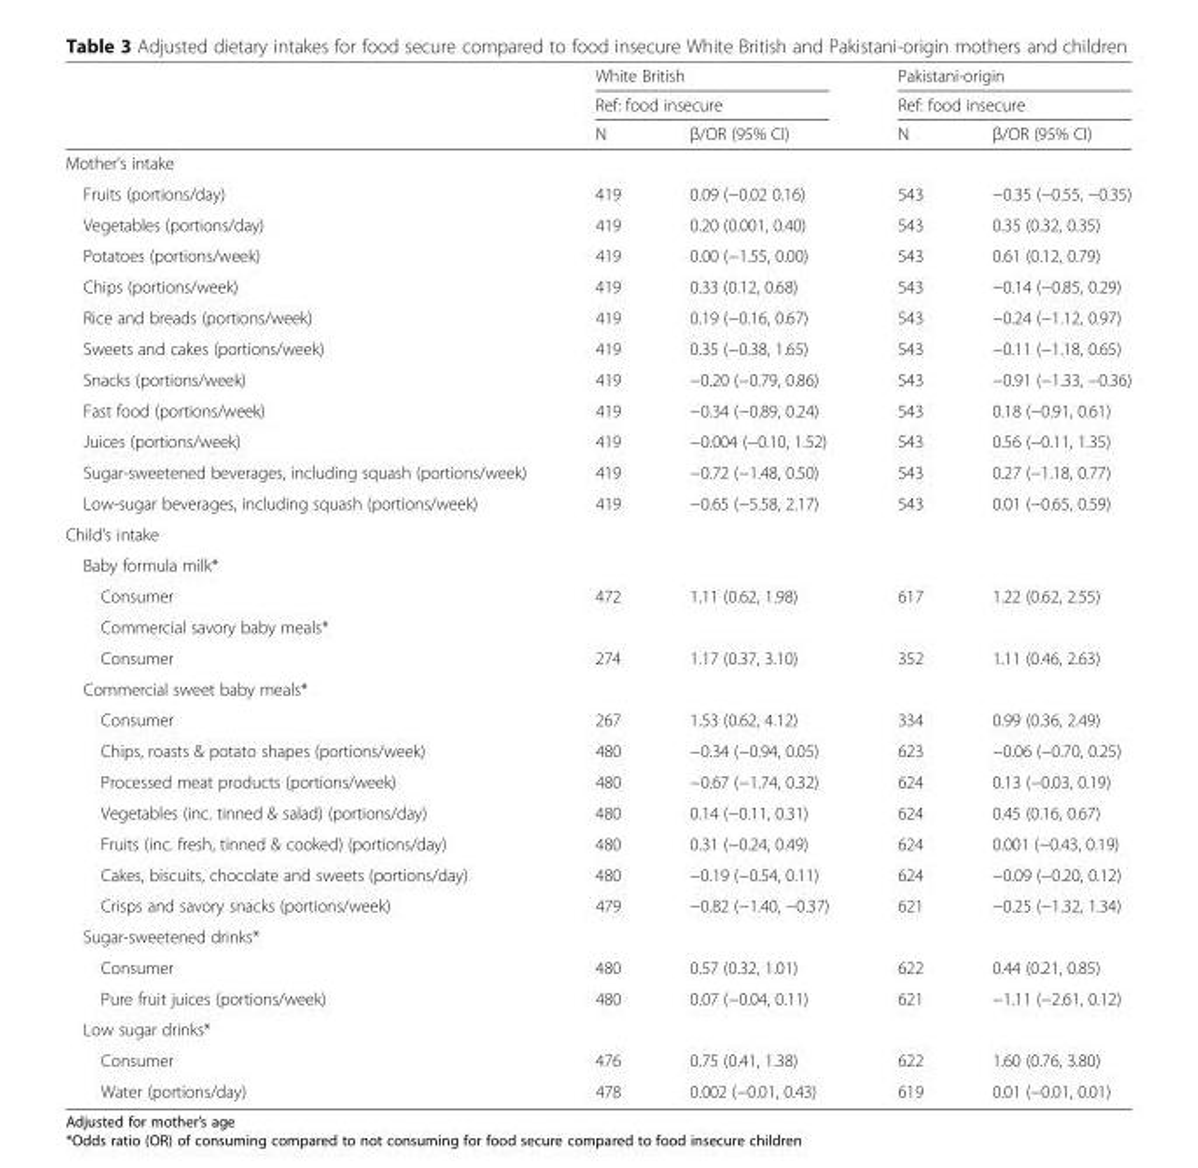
<table><thead><tr><td rowspan="3"></td><td rowspan="2" colspan="2">White British Ref: food insecure</td><td rowspan="2" colspan="2">Pakistani-origin Ref: food insecure</td></tr><tr></tr><tr><td>N</td><td>β/OR (95% CI)</td><td>N</td><td>β/OR (95% CI)</td></tr></thead><tbody><tr><td colspan="5">Mother’s intake</td></tr><tr><td>Fruits (portions/day)</td><td>419</td><td>0.09 (−0.02 0.16)</td><td>543</td><td>−0.35 (−0.55, −0.35)</td></tr><tr><td>Vegetables (portions/day)</td><td>419</td><td>0.20 (0.001, 0.40)</td><td>543</td><td>0.35 (0.32, 0.35)</td></tr><tr><td>Potatoes (portions/week)</td><td>419</td><td>0.00 (−1.55, 0.00)</td><td>543</td><td>0.61 (0.12, 0.79)</td></tr><tr><td>Chips (portions/week)</td><td>419</td><td>0.33 (0.12, 0.68)</td><td>543</td><td>−0.14 (−0.85, 0.29)</td></tr><tr><td>Rice and breads (portions/week)</td><td>419</td><td>0.19 (−0.16, 0.67)</td><td>543</td><td>−0.24 (−1.12, 0.97)</td></tr><tr><td>Sweets and cakes (portions/week)</td><td>419</td><td>0.35 (−0.38, 1.65)</td><td>543</td><td>−0.11 (−1.18, 0.65)</td></tr><tr><td>Snacks (portions/week)</td><td>419</td><td>−0.20 (−0.79, 0.86)</td><td>543</td><td>−0.91 (−1.33, −0.36)</td></tr><tr><td>Fast food (portions/week)</td><td>419</td><td>−0.34 (−0.89, 0.24)</td><td>543</td><td>0.18 (−0.91, 0.61)</td></tr><tr><td>Juices (portions/week)</td><td>419</td><td>−0.004 (−0.10, 1.52)</td><td>543</td><td>0.56 (−0.11, 1.35)</td></tr><tr><td>Sugar-sweetened beverages, including squash (portions/week)</td><td>419</td><td>−0.72 (−1.48, 0.50)</td><td>543</td><td>0.27 (−1.18, 0.77)</td></tr><tr><td>Low-sugar beverages, including squash (portions/week)</td><td>419</td><td>−0.65 (−5.58, 2.17)</td><td>543</td><td>0.01 (−0.65, 0.59)</td></tr><tr><td colspan="5">Child’s intake</td></tr><tr><td colspan="5">Baby formula milk*</td></tr><tr><td>Consumer</td><td>472</td><td>1.11 (0.62, 1.98)</td><td>617</td><td>1.22 (0.62, 2.55)</td></tr><tr><td colspan="5">Commercial savory baby meals*</td></tr><tr><td>Consumer</td><td>274</td><td>1.17 (0.37, 3.10)</td><td>352</td><td>1.11 (0.46, 2.63)</td></tr><tr><td colspan="5">Commercial sweet baby meals*</td></tr><tr><td>Consumer</td><td>267</td><td>1.53 (0.62, 4.12)</td><td>334</td><td>0.99 (0.36, 2.49)</td></tr><tr><td>Chips, roasts &amp; potato shapes (portions/week)</td><td>480</td><td>−0.34 (−0.94, 0.05)</td><td>623</td><td>−0.06 (−0.70, 0.25)</td></tr><tr><td>Processed meat products (portions/week)</td><td>480</td><td>−0.67 (−1.74, 0.32)</td><td>624</td><td>0.13 (−0.03, 0.19)</td></tr><tr><td>Vegetables (inc. tinned &amp; salad) (portions/day)</td><td>480</td><td>0.14 (−0.11, 0.31)</td><td>624</td><td>0.45 (0.16, 0.67)</td></tr><tr><td>Fruits (inc. fresh, tinned &amp; cooked) (portions/day)</td><td>480</td><td>0.31 (−0.24, 0.49)</td><td>624</td><td>0.001 (−0.43, 0.19)</td></tr><tr><td>Cakes, biscuits, chocolate and sweets (portions/day)</td><td>480</td><td>−0.19 (−0.54, 0.11)</td><td>624</td><td>−0.09 (−0.20, 0.12)</td></tr><tr><td>Crisps and savory snacks (portions/week)</td><td>479</td><td>−0.82 (−1.40, −0.37)</td><td>621</td><td>−0.25 (−1.32, 1.34)</td></tr><tr><td colspan="5">Sugar-sweetened drinks*</td></tr><tr><td>Consumer</td><td>480</td><td>0.57 (0.32, 1.01)</td><td>622</td><td>0.44 (0.21, 0.85)</td></tr><tr><td>Pure fruit juices (portions/week)</td><td>480</td><td>0.07 (−0.04, 0.11)</td><td>621</td><td>−1.11 (−2.61, 0.12)</td></tr><tr><td colspan="5">Low sugar drinks*</td></tr><tr><td>Consumer</td><td>476</td><td>0.75 (0.41, 1.38)</td><td>622</td><td>1.60 (0.76, 3.80)</td></tr><tr><td>Water (portions/day)</td><td>478</td><td>0.002 (−0.01, 0.43)</td><td>619</td><td>0.01 (−0.01, 0.01)</td></tr></tbody></table>